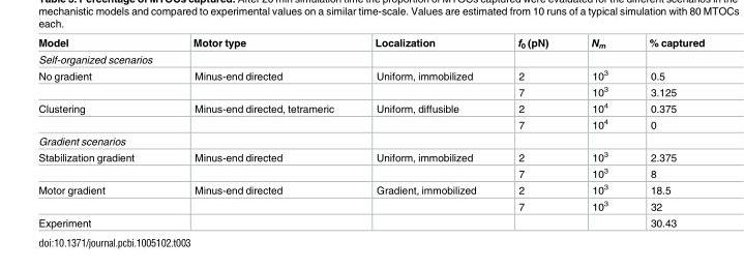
<table><thead><tr><td>Model</td><td>Motor type</td><td>Localization</td><td>f<sub>0</sub> (pN)</td><td>N<sub>m</sub></td><td>% captured</td></tr></thead><tbody><tr><td colspan="6">Self-organized scenarios</td></tr><tr><td rowspan="2">No gradient</td><td>Minus-end directed</td><td>Uniform, immobilized</td><td>2</td><td>10<sup>3</sup></td><td>0.5</td></tr><tr><td></td><td></td><td>7</td><td>10<sup>3</sup></td><td>3.125</td></tr><tr><td rowspan="2">Clustering</td><td>Minus-end directed, tetrameric</td><td>Uniform, diffusible</td><td>2</td><td>10<sup>4</sup></td><td>0.375</td></tr><tr><td></td><td></td><td>7</td><td>10<sup>4</sup></td><td>0</td></tr><tr><td colspan="6">Gradient scenarios</td></tr><tr><td rowspan="2">Stabilization gradient</td><td>Minus-end directed</td><td>Uniform, immobilized</td><td>2</td><td>10<sup>3</sup></td><td>2.375</td></tr><tr><td></td><td></td><td>7</td><td>10<sup>3</sup></td><td>8</td></tr><tr><td rowspan="2">Motor gradient</td><td>Minus-end directed</td><td>Gradient, immobilized</td><td>2</td><td>10<sup>3</sup></td><td>18.5</td></tr><tr><td></td><td></td><td>7</td><td>10<sup>3</sup></td><td>32</td></tr><tr><td>Experiment</td><td></td><td></td><td></td><td></td><td>30.43</td></tr></tbody></table>